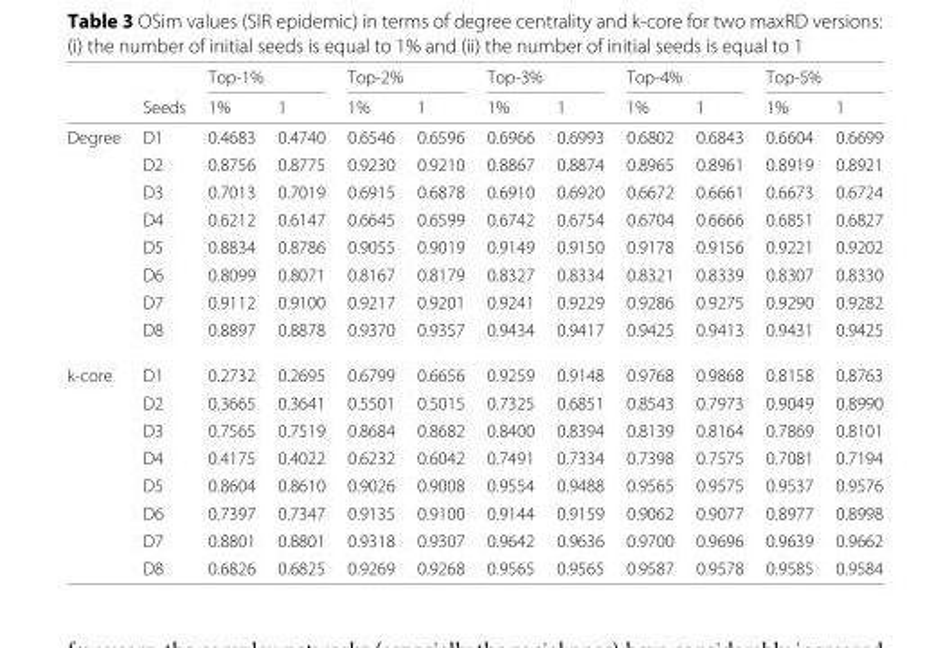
<table><thead><tr><td rowspan="2"></td><td rowspan="2">Seeds</td><td colspan="2">Top-1%</td><td colspan="2">Top-2%</td><td colspan="2">Top-3%</td><td colspan="2">Top-4%</td><td colspan="2">Top-5%</td></tr><tr><td>1%</td><td>1</td><td>1%</td><td>1</td><td>1%</td><td>1</td><td>1%</td><td>1</td><td>1%</td><td>1</td></tr></thead><tbody><tr><td rowspan="8">Degree</td><td>D1</td><td>0.4683</td><td>0.4740</td><td>0.6546</td><td>0.6596</td><td>0.6966</td><td>0.6993</td><td>0.6802</td><td>0.6843</td><td>0.6604</td><td>0.6699</td></tr><tr><td>D2</td><td>0.8756</td><td>0.8775</td><td>0.9230</td><td>0.9210</td><td>0.8867</td><td>0.8874</td><td>0.8965</td><td>0.8961</td><td>0.8919</td><td>0.8921</td></tr><tr><td>D3</td><td>0.7013</td><td>0.7019</td><td>0.6915</td><td>0.6878</td><td>0.6910</td><td>0.6920</td><td>0.6672</td><td>0.6661</td><td>0.6673</td><td>0.6724</td></tr><tr><td>D4</td><td>0.6212</td><td>0.6147</td><td>0.6645</td><td>0.6599</td><td>0.6742</td><td>0.6754</td><td>0.6704</td><td>0.6666</td><td>0.6851</td><td>0.6827</td></tr><tr><td>D5</td><td>0.8834</td><td>0.8786</td><td>0.9055</td><td>0.9019</td><td>0.9149</td><td>0.9150</td><td>0.9178</td><td>0.9156</td><td>0.9221</td><td>0.9202</td></tr><tr><td>D6</td><td>0.8099</td><td>0.8071</td><td>0.8167</td><td>0.8179</td><td>0.8327</td><td>0.8334</td><td>0.8321</td><td>0.8339</td><td>0.8307</td><td>0.8330</td></tr><tr><td>D7</td><td>0.9112</td><td>0.9100</td><td>0.9217</td><td>0.9201</td><td>0.9241</td><td>0.9229</td><td>0.9286</td><td>0.9275</td><td>0.9290</td><td>0.9282</td></tr><tr><td>D8</td><td>0.8897</td><td>0.8878</td><td>0.9370</td><td>0.9357</td><td>0.9434</td><td>0.9417</td><td>0.9425</td><td>0.9413</td><td>0.9431</td><td>0.9425</td></tr><tr><td rowspan="8">k-core</td><td>D1</td><td>0.2732</td><td>0.2695</td><td>0.6799</td><td>0.6656</td><td>0.9259</td><td>0.9148</td><td>0.9768</td><td>0.9868</td><td>0.8158</td><td>0.8763</td></tr><tr><td>D2</td><td>0.3665</td><td>0.3641</td><td>0.5501</td><td>0.5015</td><td>0.7325</td><td>0.6851</td><td>0.8543</td><td>0.7973</td><td>0.9049</td><td>0.8990</td></tr><tr><td>D3</td><td>0.7565</td><td>0.7519</td><td>0.8684</td><td>0.8682</td><td>0.8400</td><td>0.8394</td><td>0.8139</td><td>0.8164</td><td>0.7869</td><td>0.8101</td></tr><tr><td>D4</td><td>0.4175</td><td>0.4022</td><td>0.6232</td><td>0.6042</td><td>0.7491</td><td>0.7334</td><td>0.7398</td><td>0.7575</td><td>0.7081</td><td>0.7194</td></tr><tr><td>D5</td><td>0.8604</td><td>0.8610</td><td>0.9026</td><td>0.9008</td><td>0.9554</td><td>0.9488</td><td>0.9565</td><td>0.9575</td><td>0.9537</td><td>0.9576</td></tr><tr><td>D6</td><td>0.7397</td><td>0.7347</td><td>0.9135</td><td>0.9100</td><td>0.9144</td><td>0.9159</td><td>0.9062</td><td>0.9077</td><td>0.8977</td><td>0.8998</td></tr><tr><td>D7</td><td>0.8801</td><td>0.8801</td><td>0.9318</td><td>0.9307</td><td>0.9642</td><td>0.9636</td><td>0.9700</td><td>0.9696</td><td>0.9639</td><td>0.9662</td></tr><tr><td>D8</td><td>0.6826</td><td>0.6825</td><td>0.9269</td><td>0.9268</td><td>0.9565</td><td>0.9565</td><td>0.9587</td><td>0.9578</td><td>0.9585</td><td>0.9584</td></tr></tbody></table>